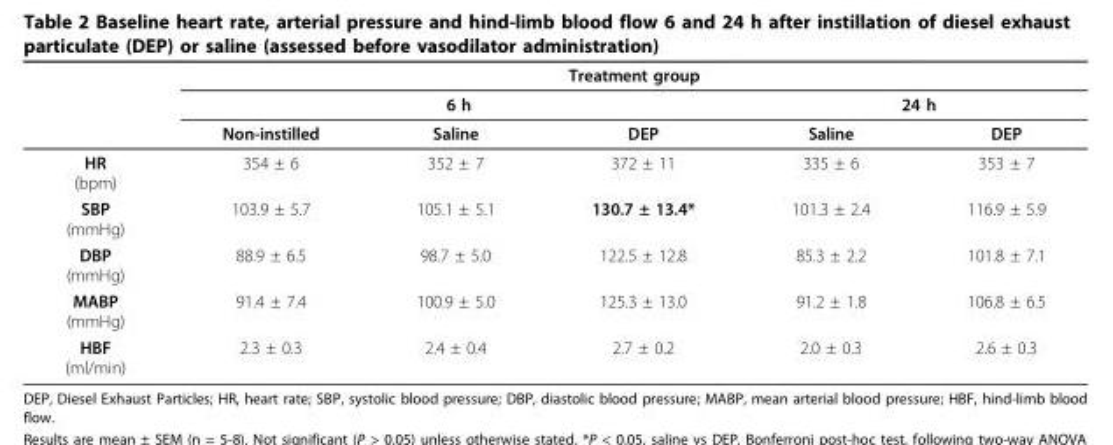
<table><thead><tr><td rowspan="3"></td><td colspan="5">Treatment group</td></tr><tr><td colspan="3">6 h</td><td colspan="2">24 h</td></tr><tr><td>Non-instilled</td><td>Saline</td><td>DEP</td><td>Saline</td><td>DEP</td></tr></thead><tbody><tr><td>HR (bpm)</td><td>354 ± 6</td><td>352 ± 7</td><td>372 ± 11</td><td>335 ± 6</td><td>353 ± 7</td></tr><tr><td>SBP (mmHg)</td><td>103.9 ± 5.7</td><td>105.1 ± 5.1</td><td>130.7 ± 13.4*</td><td>101.3 ± 2.4</td><td>116.9 ± 5.9</td></tr><tr><td>DBP (mmHg)</td><td>88.9 ± 6.5</td><td>98.7 ± 5.0</td><td>122.5 ± 12.8</td><td>85.3 ± 2.2</td><td>101.8 ± 7.1</td></tr><tr><td>MABP (mmHg)</td><td>91.4 ± 7.4</td><td>100.9 ± 5.0</td><td>125.3 ± 13.0</td><td>91.2 ± 1.8</td><td>106.8 ± 6.5</td></tr><tr><td>HBF (ml/min)</td><td>2.3 ± 0.3</td><td>2.4 ± 0.4</td><td>2.7 ± 0.2</td><td>2.0 ± 0.3</td><td>2.6 ± 0.3</td></tr></tbody></table>